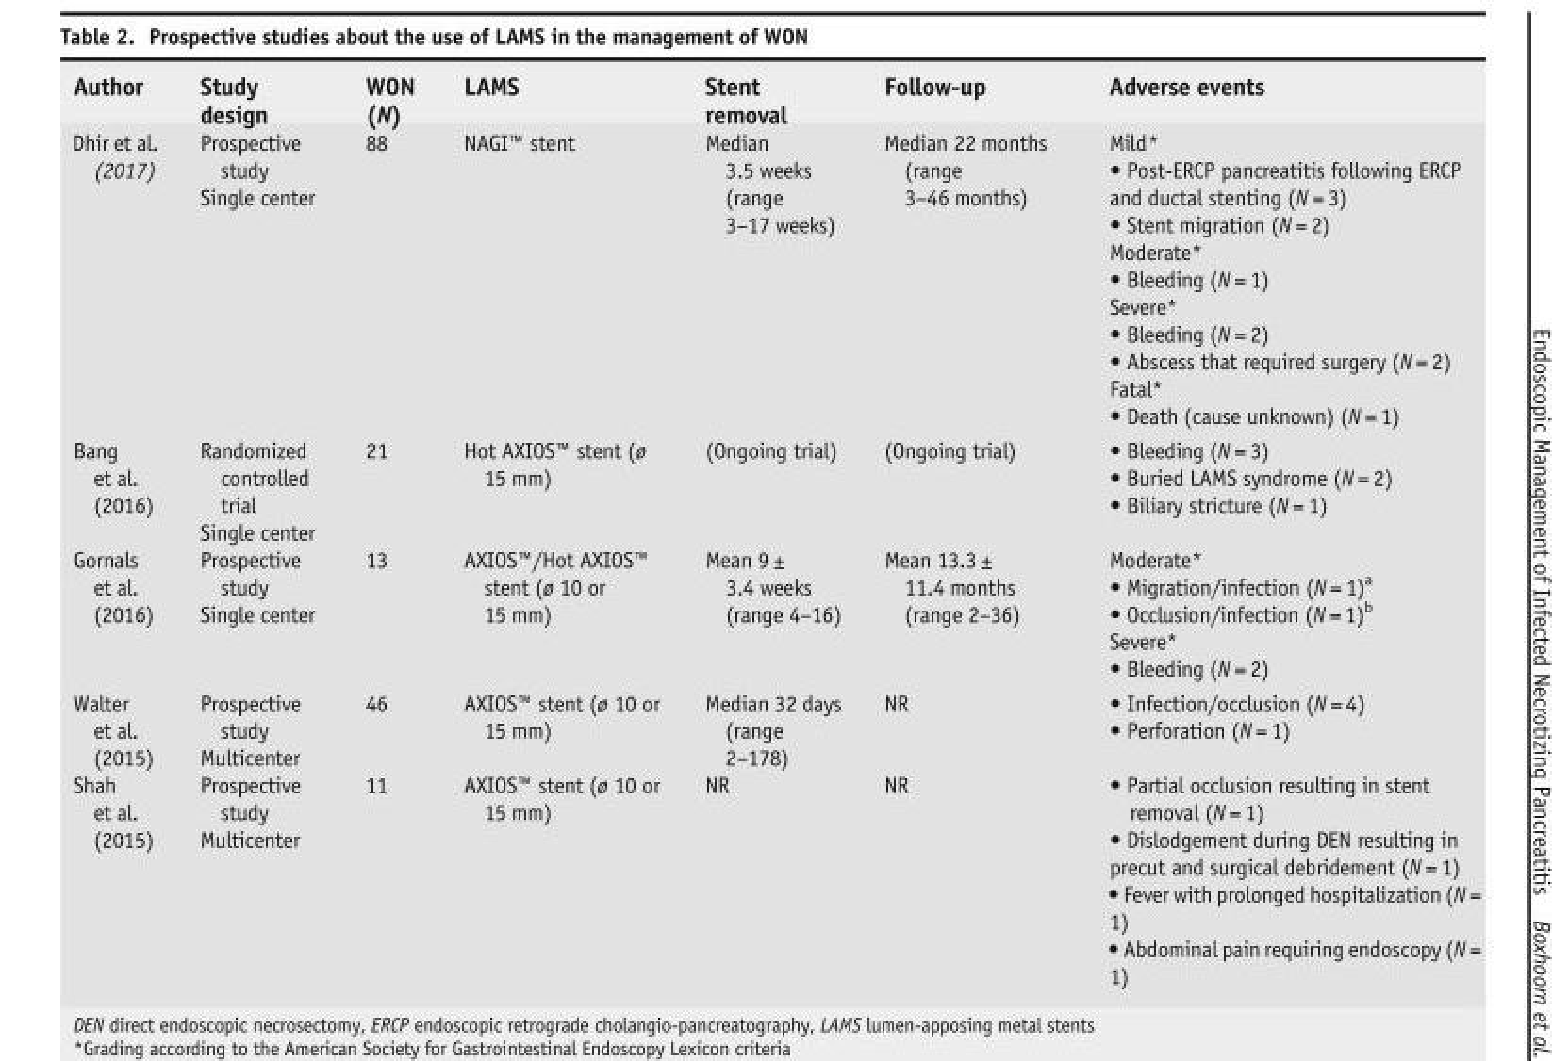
<table><thead><tr><td>Author</td><td>Study design</td><td>WON (N)</td><td>LAMS</td><td>Stent removal</td><td>Follow-up</td><td>Adverse events</td></tr></thead><tbody><tr><td>Dhir et al. (2017)</td><td>Prospective study Single center</td><td>88</td><td>NAGI™ stent</td><td>Median 3.5 weeks (range 3–17 weeks)</td><td>Median 22 months (range 3–46 months)</td><td>Mild* • Post-ERCP pancreatitis following ERCP and ductal stenting (N = 3) • Stent migration (N = 2) Moderate* • Bleeding (N = 1) Severe* • Bleeding (N = 2) • Abscess that required surgery (N = 2) Fatal* • Death (cause unknown) (N = 1)</td></tr><tr><td>Bang et al. (2016)</td><td>Randomized controlled trial Single center</td><td>21</td><td>Hot AXIOS™ stent (ø 15 mm)</td><td>(Ongoing trial)</td><td>(Ongoing trial)</td><td>• Bleeding (N = 3) • Buried LAMS syndrome (N = 2) • Biliary stricture (N = 1)</td></tr><tr><td>Gornals et al. (2016)</td><td>Prospective study Single center</td><td>13</td><td>AXIOS™/Hot AXIOS™ stent (ø 10 or 15 mm)</td><td>Mean 9 ± 3.4 weeks (range 4–16)</td><td>Mean 13.3 ± 11.4 months (range 2–36)</td><td>Moderate* • Migration/infection (N = 1)<sup>a</sup> • Occlusion/infection (N = 1)<sup>b</sup> Severe* • Bleeding (N = 2)</td></tr><tr><td>Walter et al. (2015)</td><td>Prospective study Multicenter</td><td>46</td><td>AXIOS™ stent (ø 10 or 15 mm)</td><td>Median 32 days (range 2–178)</td><td>NR</td><td>• Infection/occlusion (N = 4) • Perforation (N = 1)</td></tr><tr><td>Shah et al. (2015)</td><td>Prospective study Multicenter</td><td>11</td><td>AXIOS™ stent (ø 10 or 15 mm)</td><td>NR</td><td>NR</td><td>• Partial occlusion resulting in stent removal (N = 1) • Dislodgement during DEN resulting in precut and surgical debridement (N = 1) • Fever with prolonged hospitalization (N = 1) • Abdominal pain requiring endoscopy (N = 1)</td></tr></tbody></table>